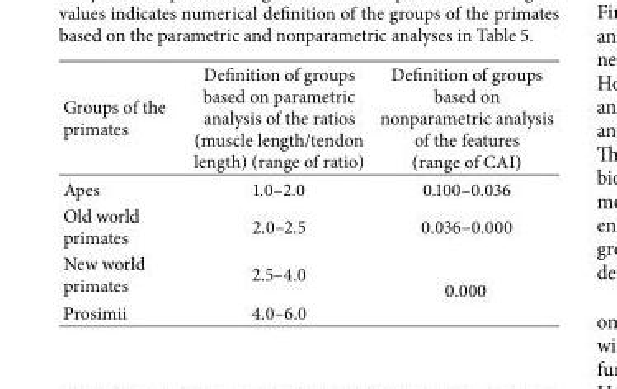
<table><thead><tr><td>Groups of the primates</td><td>Definition of groups based on parametric analysis of the ratios (muscle length/tendon length) (range of ratio)</td><td>Definition of groups based on nonparametric analysis of the features (range of CAI)</td></tr></thead><tbody><tr><td>Apes</td><td>1.0–2.0</td><td>0.100–0.036</td></tr><tr><td>Old world primates</td><td>2.0–2.5</td><td>0.036–0.000</td></tr><tr><td>New world primates</td><td>2.5–4.0</td><td rowspan="2">0.000</td></tr><tr><td>Prosimii</td><td>4.0–6.0</td></tr></tbody></table>